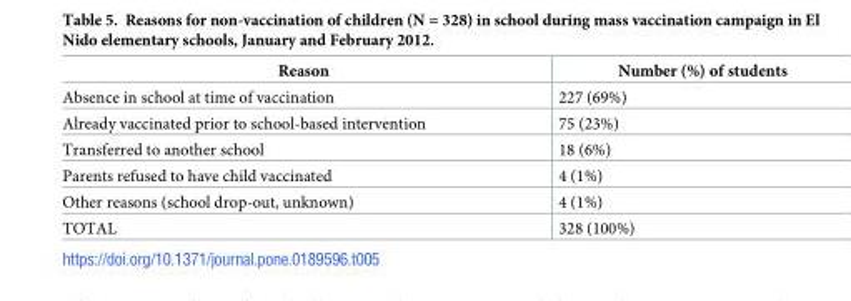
<table><thead><tr><td>Reason</td><td>Number (%) of students</td></tr></thead><tbody><tr><td>Absence in school at time of vaccination</td><td>227 (69%)</td></tr><tr><td>Already vaccinated prior to school-based intervention</td><td>75 (23%)</td></tr><tr><td>Transferred to another school</td><td>18 (6%)</td></tr><tr><td>Parents refused to have child vaccinated</td><td>4 (1%)</td></tr><tr><td>Other reasons (school drop-out, unknown)</td><td>4 (1%)</td></tr><tr><td>TOTAL</td><td>328 (100%)</td></tr></tbody></table>